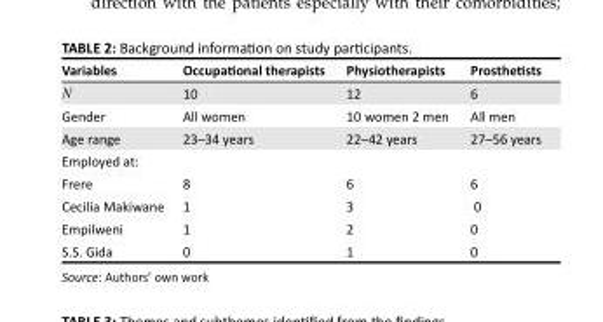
<table><thead><tr><td>Variables</td><td>Occupational therapists</td><td>Physiotherapists</td><td>Prosthetists</td></tr></thead><tbody><tr><td>N</td><td>10</td><td>12</td><td>6</td></tr><tr><td>Gender</td><td>All women</td><td>10 women 2 men</td><td>All men</td></tr><tr><td>Age range</td><td>23–34 years</td><td>22–42 years</td><td>27–56 years</td></tr><tr><td colspan="4">Employed at:</td></tr><tr><td>Frere</td><td>8</td><td>6</td><td>6</td></tr><tr><td>Cecilia Makiwane</td><td>1</td><td>3</td><td>0</td></tr><tr><td>Empilweni</td><td>1</td><td>2</td><td>0</td></tr><tr><td>S.S. Gida</td><td>0</td><td>1</td><td>0</td></tr></tbody></table>